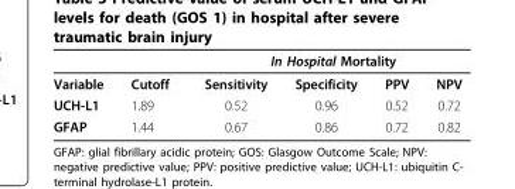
<table><thead><tr><td rowspan="2">Variable</td><td rowspan="2">Cutoff</td><td colspan="4">In Hospital Mortality</td></tr><tr><td>Sensitivity</td><td>Specificity</td><td>PPV</td><td>NPV</td></tr></thead><tbody><tr><td>UCH-L1</td><td>1.89</td><td>0.52</td><td>0.96</td><td>0.52</td><td>0.72</td></tr><tr><td>GFAP</td><td>1.44</td><td>0.67</td><td>0.86</td><td>0.72</td><td>0.82</td></tr></tbody></table>